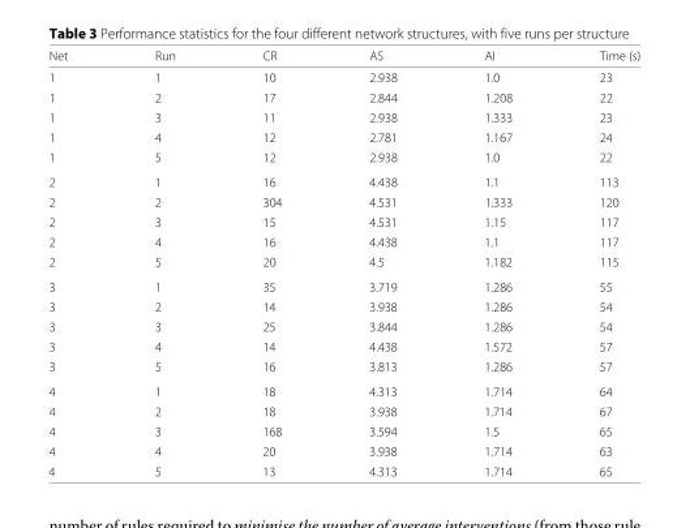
<table><thead><tr><td>Net</td><td>Run</td><td>CR</td><td>AS</td><td>AI</td><td>Time (s)</td></tr></thead><tbody><tr><td>1</td><td>1</td><td>10</td><td>2.938</td><td>1.0</td><td>23</td></tr><tr><td>1</td><td>2</td><td>17</td><td>2.844</td><td>1.208</td><td>22</td></tr><tr><td>1</td><td>3</td><td>11</td><td>2.938</td><td>1.333</td><td>23</td></tr><tr><td>1</td><td>4</td><td>12</td><td>2.781</td><td>1.167</td><td>24</td></tr><tr><td>1</td><td>5</td><td>12</td><td>2.938</td><td>1.0</td><td>22</td></tr><tr><td>2</td><td>1</td><td>16</td><td>4.438</td><td>1.1</td><td>113</td></tr><tr><td>2</td><td>2</td><td>304</td><td>4.531</td><td>1.333</td><td>120</td></tr><tr><td>2</td><td>3</td><td>15</td><td>4.531</td><td>1.15</td><td>117</td></tr><tr><td>2</td><td>4</td><td>16</td><td>4.438</td><td>1.1</td><td>117</td></tr><tr><td>2</td><td>5</td><td>20</td><td>4.5</td><td>1.182</td><td>115</td></tr><tr><td>3</td><td>1</td><td>35</td><td>3.719</td><td>1.286</td><td>55</td></tr><tr><td>3</td><td>2</td><td>14</td><td>3.938</td><td>1.286</td><td>54</td></tr><tr><td>3</td><td>3</td><td>25</td><td>3.844</td><td>1.286</td><td>54</td></tr><tr><td>3</td><td>4</td><td>14</td><td>4.438</td><td>1.572</td><td>57</td></tr><tr><td>3</td><td>5</td><td>16</td><td>3.813</td><td>1.286</td><td>57</td></tr><tr><td>4</td><td>1</td><td>18</td><td>4.313</td><td>1.714</td><td>64</td></tr><tr><td>4</td><td>2</td><td>18</td><td>3.938</td><td>1.714</td><td>67</td></tr><tr><td>4</td><td>3</td><td>168</td><td>3.594</td><td>1.5</td><td>65</td></tr><tr><td>4</td><td>4</td><td>20</td><td>3.938</td><td>1.714</td><td>63</td></tr><tr><td>4</td><td>5</td><td>13</td><td>4.313</td><td>1.714</td><td>65</td></tr></tbody></table>